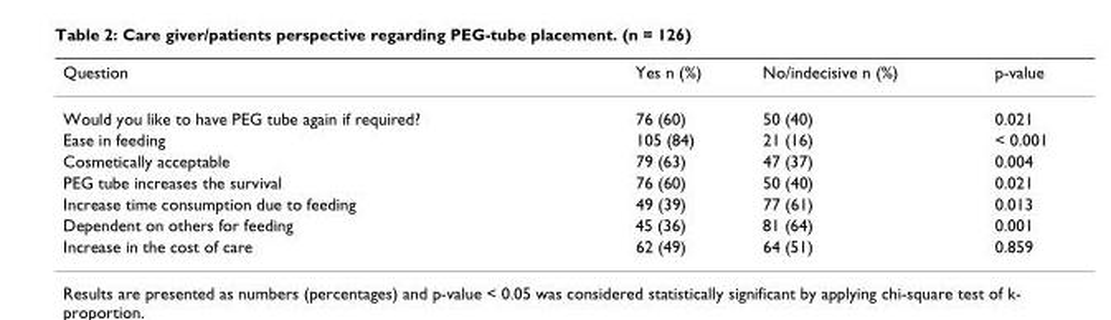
<table><thead><tr><td>Question</td><td>Yes n (%)</td><td>No/indecisive n (%)</td><td>p-value</td></tr></thead><tbody><tr><td>Would you like to have PEG tube again if required?</td><td>76 (60)</td><td>50 (40)</td><td>0.021</td></tr><tr><td>Ease in feeding</td><td>105 (84)</td><td>21 (16)</td><td>&lt; 0.001</td></tr><tr><td>Cosmetically acceptable</td><td>79 (63)</td><td>47 (37)</td><td>0.004</td></tr><tr><td>PEG tube increases the survival</td><td>76 (60)</td><td>50 (40)</td><td>0.021</td></tr><tr><td>Increase time consumption due to feeding</td><td>49 (39)</td><td>77 (61)</td><td>0.013</td></tr><tr><td>Dependent on others for feeding</td><td>45 (36)</td><td>81 (64)</td><td>0.001</td></tr><tr><td>Increase in the cost of care</td><td>62 (49)</td><td>64 (51)</td><td>0.859</td></tr></tbody></table>